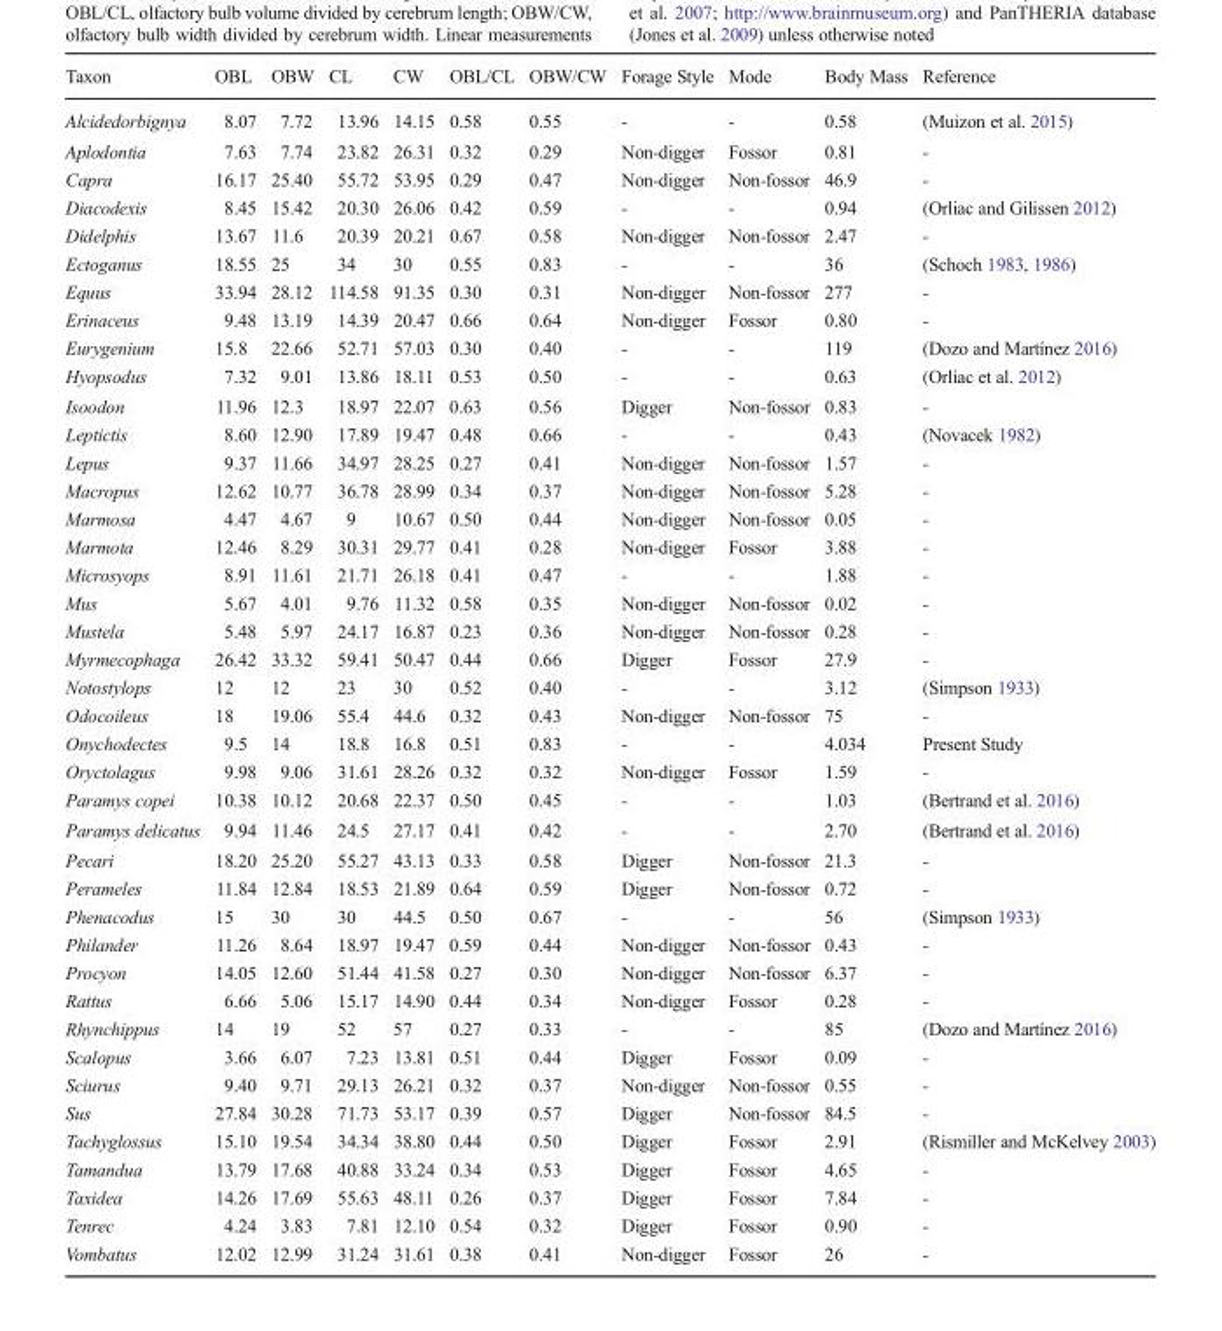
<table><thead><tr><td>Taxon</td><td>OBL</td><td>OBW</td><td>CL</td><td>CW</td><td>OBL/CL</td><td>OBW/CW</td><td>Forage Style</td><td>Mode</td><td>Body Mass</td><td>Reference</td></tr></thead><tbody><tr><td>Alcidedorbignya</td><td>8.07</td><td>7.72</td><td>13.96</td><td>14.15</td><td>0.58</td><td>0.55</td><td>-</td><td>-</td><td>0.58</td><td>(Muizon et al. 2015)</td></tr><tr><td>Aplodontia</td><td>7.63</td><td>7.74</td><td>23.82</td><td>26.31</td><td>0.32</td><td>0.29</td><td>Non-digger</td><td>Fossor</td><td>0.81</td><td>-</td></tr><tr><td>Capra</td><td>16.17</td><td>25.40</td><td>55.72</td><td>53.95</td><td>0.29</td><td>0.47</td><td>Non-digger</td><td>Non-fossor</td><td>46.9</td><td>-</td></tr><tr><td>Diacodexis</td><td>8.45</td><td>15.42</td><td>20.30</td><td>26.06</td><td>0.42</td><td>0.59</td><td>-</td><td>-</td><td>0.94</td><td>(Orliac and Gilissen 2012)</td></tr><tr><td>Didelphis</td><td>13.67</td><td>11.6</td><td>20.39</td><td>20.21</td><td>0.67</td><td>0.58</td><td>Non-digger</td><td>Non-fossor</td><td>2.47</td><td>-</td></tr><tr><td>Ectoganus</td><td>18.55</td><td>25</td><td>34</td><td>30</td><td>0.55</td><td>0.83</td><td>-</td><td>-</td><td>36</td><td>(Schoch 1983, 1986)</td></tr><tr><td>Equus</td><td>33.94</td><td>28.12</td><td>114.58</td><td>91.35</td><td>0.30</td><td>0.31</td><td>Non-digger</td><td>Non-fossor</td><td>277</td><td>-</td></tr><tr><td>Erinaceus</td><td>9.48</td><td>13.19</td><td>14.39</td><td>20.47</td><td>0.66</td><td>0.64</td><td>Non-digger</td><td>Fossor</td><td>0.80</td><td>-</td></tr><tr><td>Eurygenium</td><td>15.8</td><td>22.66</td><td>52.71</td><td>57.03</td><td>0.30</td><td>0.40</td><td>-</td><td>-</td><td>119</td><td>(Dozo and Martínez 2016)</td></tr><tr><td>Hyopsodus</td><td>7.32</td><td>9.01</td><td>13.86</td><td>18.11</td><td>0.53</td><td>0.50</td><td>-</td><td>-</td><td>0.63</td><td>(Orliac et al. 2012)</td></tr><tr><td>Isoodon</td><td>11.96</td><td>12.3</td><td>18.97</td><td>22.07</td><td>0.63</td><td>0.56</td><td>Digger</td><td>Non-fossor</td><td>0.83</td><td>-</td></tr><tr><td>Leptictis</td><td>8.60</td><td>12.90</td><td>17.89</td><td>19.47</td><td>0.48</td><td>0.66</td><td>-</td><td>-</td><td>0.43</td><td>(Novacek 1982)</td></tr><tr><td>Lepus</td><td>9.37</td><td>11.66</td><td>34.97</td><td>28.25</td><td>0.27</td><td>0.41</td><td>Non-digger</td><td>Non-fossor</td><td>1.57</td><td>-</td></tr><tr><td>Macropus</td><td>12.62</td><td>10.77</td><td>36.78</td><td>28.99</td><td>0.34</td><td>0.37</td><td>Non-digger</td><td>Non-fossor</td><td>5.28</td><td>-</td></tr><tr><td>Marmosa</td><td>4.47</td><td>4.67</td><td>9</td><td>10.67</td><td>0.50</td><td>0.44</td><td>Non-digger</td><td>Non-fossor</td><td>0.05</td><td>-</td></tr><tr><td>Marmota</td><td>12.46</td><td>8.29</td><td>30.31</td><td>29.77</td><td>0.41</td><td>0.28</td><td>Non-digger</td><td>Fossor</td><td>3.88</td><td>-</td></tr><tr><td>Microsyops</td><td>8.91</td><td>11.61</td><td>21.71</td><td>26.18</td><td>0.41</td><td>0.47</td><td>-</td><td>-</td><td>1.88</td><td>-</td></tr><tr><td>Mus</td><td>5.67</td><td>4.01</td><td>9.76</td><td>11.32</td><td>0.58</td><td>0.35</td><td>Non-digger</td><td>Non-fossor</td><td>0.02</td><td>-</td></tr><tr><td>Mustela</td><td>5.48</td><td>5.97</td><td>24.17</td><td>16.87</td><td>0.23</td><td>0.36</td><td>Non-digger</td><td>Non-fossor</td><td>0.28</td><td>-</td></tr><tr><td>Myrmecophaga</td><td>26.42</td><td>33.32</td><td>59.41</td><td>50.47</td><td>0.44</td><td>0.66</td><td>Digger</td><td>Fossor</td><td>27.9</td><td>-</td></tr><tr><td>Notostylops</td><td>12</td><td>12</td><td>23</td><td>30</td><td>0.52</td><td>0.40</td><td>-</td><td>-</td><td>3.12</td><td>(Simpson 1933)</td></tr><tr><td>Odocoileus</td><td>18</td><td>19.06</td><td>55.4</td><td>44.6</td><td>0.32</td><td>0.43</td><td>Non-digger</td><td>Non-fossor</td><td>75</td><td>-</td></tr><tr><td>Onychodectes</td><td>9.5</td><td>14</td><td>18.8</td><td>16.8</td><td>0.51</td><td>0.83</td><td>-</td><td>-</td><td>4.034</td><td>Present Study</td></tr><tr><td>Oryctolagus</td><td>9.98</td><td>9.06</td><td>31.61</td><td>28.26</td><td>0.32</td><td>0.32</td><td>Non-digger</td><td>Fossor</td><td>1.59</td><td>-</td></tr><tr><td>Paramys copei</td><td>10.38</td><td>10.12</td><td>20.68</td><td>22.37</td><td>0.50</td><td>0.45</td><td>-</td><td>-</td><td>1.03</td><td>(Bertrand et al. 2016)</td></tr><tr><td>Paramys delicatus</td><td>9.94</td><td>11.46</td><td>24.5</td><td>27.17</td><td>0.41</td><td>0.42</td><td>-</td><td>-</td><td>2.70</td><td>(Bertrand et al. 2016)</td></tr><tr><td>Pecari</td><td>18.20</td><td>25.20</td><td>55.27</td><td>43.13</td><td>0.33</td><td>0.58</td><td>Digger</td><td>Non-fossor</td><td>21.3</td><td>-</td></tr><tr><td>Perameles</td><td>11.84</td><td>12.84</td><td>18.53</td><td>21.89</td><td>0.64</td><td>0.59</td><td>Digger</td><td>Non-fossor</td><td>0.72</td><td>-</td></tr><tr><td>Phenacodus</td><td>15</td><td>30</td><td>30</td><td>44.5</td><td>0.50</td><td>0.67</td><td>-</td><td>-</td><td>56</td><td>(Simpson 1933)</td></tr><tr><td>Philander</td><td>11.26</td><td>8.64</td><td>18.97</td><td>19.47</td><td>0.59</td><td>0.44</td><td>Non-digger</td><td>Non-fossor</td><td>0.43</td><td>-</td></tr><tr><td>Procyon</td><td>14.05</td><td>12.60</td><td>51.44</td><td>41.58</td><td>0.27</td><td>0.30</td><td>Non-digger</td><td>Non-fossor</td><td>6.37</td><td>-</td></tr><tr><td>Rattus</td><td>6.66</td><td>5.06</td><td>15.17</td><td>14.90</td><td>0.44</td><td>0.34</td><td>Non-digger</td><td>Fossor</td><td>0.28</td><td>-</td></tr><tr><td>Rhynchippus</td><td>14</td><td>19</td><td>52</td><td>57</td><td>0.27</td><td>0.33</td><td>-</td><td>-</td><td>85</td><td>(Dozo and Martínez 2016)</td></tr><tr><td>Scalopus</td><td>3.66</td><td>6.07</td><td>7.23</td><td>13.81</td><td>0.51</td><td>0.44</td><td>Digger</td><td>Fossor</td><td>0.09</td><td>-</td></tr><tr><td>Sciurus</td><td>9.40</td><td>9.71</td><td>29.13</td><td>26.21</td><td>0.32</td><td>0.37</td><td>Non-digger</td><td>Non-fossor</td><td>0.55</td><td>-</td></tr><tr><td>Sus</td><td>27.84</td><td>30.28</td><td>71.73</td><td>53.17</td><td>0.39</td><td>0.57</td><td>Digger</td><td>Non-fossor</td><td>84.5</td><td>-</td></tr><tr><td>Tachyglossus</td><td>15.10</td><td>19.54</td><td>34.34</td><td>38.80</td><td>0.44</td><td>0.50</td><td>Digger</td><td>Fossor</td><td>2.91</td><td>(Rismiller and McKelvey 2003)</td></tr><tr><td>Tamandua</td><td>13.79</td><td>17.68</td><td>40.88</td><td>33.24</td><td>0.34</td><td>0.53</td><td>Digger</td><td>Fossor</td><td>4.65</td><td>-</td></tr><tr><td>Taxidea</td><td>14.26</td><td>17.69</td><td>55.63</td><td>48.11</td><td>0.26</td><td>0.37</td><td>Digger</td><td>Fossor</td><td>7.84</td><td>-</td></tr><tr><td>Tenrec</td><td>4.24</td><td>3.83</td><td>7.81</td><td>12.10</td><td>0.54</td><td>0.32</td><td>Digger</td><td>Fossor</td><td>0.90</td><td>-</td></tr><tr><td>Vombatus</td><td>12.02</td><td>12.99</td><td>31.24</td><td>31.61</td><td>0.38</td><td>0.41</td><td>Non-digger</td><td>Fossor</td><td>26</td><td>-</td></tr></tbody></table>